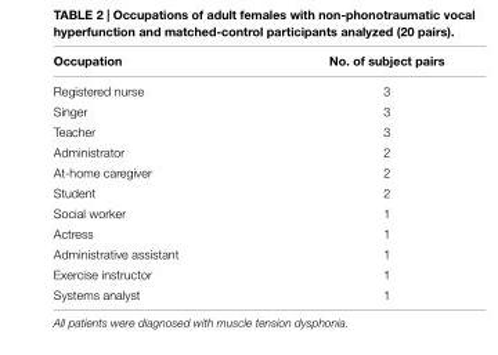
<table><thead><tr><td>Occupation</td><td>no. of subject pairs</td></tr></thead><tbody><tr><td>Registered nurse</td><td>3</td></tr><tr><td>Singer</td><td>3</td></tr><tr><td>Teacher</td><td>3</td></tr><tr><td>Administrator</td><td>2</td></tr><tr><td>At-home caregiver</td><td>2</td></tr><tr><td>Student</td><td>2</td></tr><tr><td>Social worker</td><td>1</td></tr><tr><td>Actress</td><td>1</td></tr><tr><td>Administrative assistant</td><td>1</td></tr><tr><td>Exercise instructor</td><td>1</td></tr><tr><td>Systems analyst</td><td>1</td></tr></tbody></table>